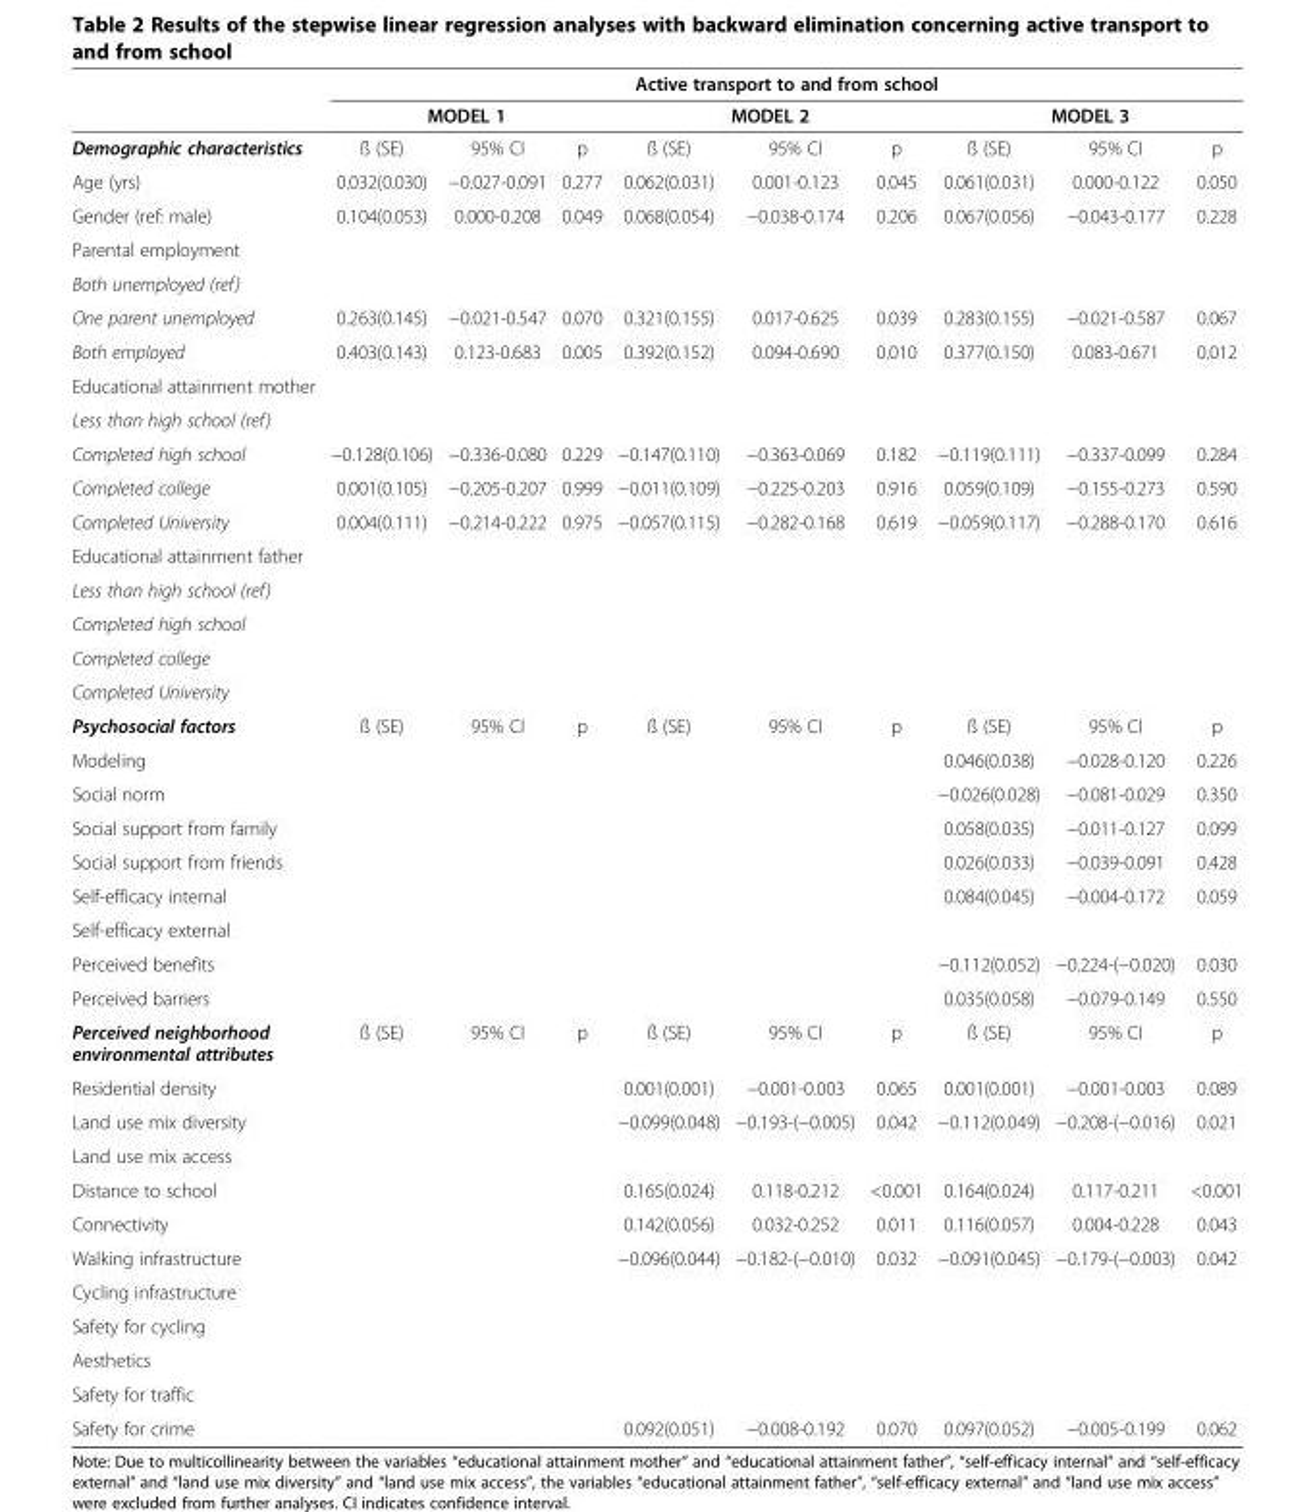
<table><thead><tr><td rowspan="3">Demographic characteristics</td><td colspan="9">Active transport to and from school</td></tr><tr><td colspan="3">MODEL 1</td><td colspan="3">MODEL 2</td><td colspan="3">MODEL 3</td></tr><tr><td>ß (SE)</td><td>95% CI</td><td>p</td><td>ß (SE)</td><td>95% CI</td><td>p</td><td>ß (SE)</td><td>95% CI</td><td>p</td></tr></thead><tbody><tr><td>Age (yrs)</td><td>0.032(0.030)</td><td>−0.027-0.091</td><td>0.277</td><td>0.062(0.031)</td><td>0.001-0.123</td><td>0.045</td><td>0.061(0.031)</td><td>0.000-0.122</td><td>0.050</td></tr><tr><td>Gender (ref: male)</td><td>0.104(0.053)</td><td>0.000-0.208</td><td>0.049</td><td>0.068(0.054)</td><td>−0.038-0.174</td><td>0.206</td><td>0.067(0.056)</td><td>−0.043-0.177</td><td>0.228</td></tr><tr><td colspan="10">Parental employment</td></tr><tr><td colspan="10">Both unemployed (ref)</td></tr><tr><td>One parent unemployed</td><td>0.263(0.145)</td><td>−0.021-0.547</td><td>0.070</td><td>0.321(0.155)</td><td>0.017-0.625</td><td>0.039</td><td>0.283(0.155)</td><td>−0.021-0.587</td><td>0.067</td></tr><tr><td>Both employed</td><td>0.403(0.143)</td><td>0.123-0.683</td><td>0.005</td><td>0.392(0.152)</td><td>0.094-0.690</td><td>0.010</td><td>0.377(0.150)</td><td>0.083-0.671</td><td>0.012</td></tr><tr><td colspan="10">Educational attainment mother</td></tr><tr><td colspan="10">Less than high school (ref)</td></tr><tr><td>Completed high school</td><td>−0.128(0.106)</td><td>−0.336-0.080</td><td>0.229</td><td>−0.147(0.110)</td><td>−0.363-0.069</td><td>0.182</td><td>−0.119(0.111)</td><td>−0.337-0.099</td><td>0.284</td></tr><tr><td>Completed college</td><td>0.001(0.105)</td><td>−0.205-0.207</td><td>0.999</td><td>−0.011(0.109)</td><td>−0.225-0.203</td><td>0.916</td><td>0.059(0.109)</td><td>−0.155-0.273</td><td>0.590</td></tr><tr><td>Completed University</td><td>0.004(0.111)</td><td>−0.214-0.222</td><td>0.975</td><td>−0.057(0.115)</td><td>−0.282-0.168</td><td>0.619</td><td>−0.059(0.117)</td><td>−0.288-0.170</td><td>0.616</td></tr><tr><td colspan="10">Educational attainment father</td></tr><tr><td colspan="10">Less than high school (ref)</td></tr><tr><td colspan="10">Completed high school</td></tr><tr><td colspan="10">Completed college</td></tr><tr><td colspan="10">Completed University</td></tr><tr><td>Psychosocial factors</td><td>ß (SE)</td><td>95% CI</td><td>p</td><td>ß (SE)</td><td>95% CI</td><td>p</td><td>ß (SE)</td><td>95% CI</td><td>p</td></tr><tr><td>Modeling</td><td></td><td></td><td></td><td></td><td></td><td></td><td>0.046(0.038)</td><td>−0.028-0.120</td><td>0.226</td></tr><tr><td>Social norm</td><td></td><td></td><td></td><td></td><td></td><td></td><td>−0.026(0.028)</td><td>−0.081-0.029</td><td>0.350</td></tr><tr><td>Social support from family</td><td></td><td></td><td></td><td></td><td></td><td></td><td>0.058(0.035)</td><td>−0.011-0.127</td><td>0.099</td></tr><tr><td>Social support from friends</td><td></td><td></td><td></td><td></td><td></td><td></td><td>0.026(0.033)</td><td>−0.039-0.091</td><td>0.428</td></tr><tr><td>Self-efficacy internal</td><td></td><td></td><td></td><td></td><td></td><td></td><td>0.084(0.045)</td><td>−0.004-0.172</td><td>0.059</td></tr><tr><td colspan="10">Self-efficacy external</td></tr><tr><td>Perceived benefits</td><td></td><td></td><td></td><td></td><td></td><td></td><td>−0.112(0.052)</td><td>−0.224-(−0.020)</td><td>0.030</td></tr><tr><td>Perceived barriers</td><td></td><td></td><td></td><td></td><td></td><td></td><td>0.035(0.058)</td><td>−0.079-0.149</td><td>0.550</td></tr><tr><td>Perceived neighborhood environmental attributes</td><td>ß (SE)</td><td>95% CI</td><td>p</td><td>ß (SE)</td><td>95% CI</td><td>p</td><td>ß (SE)</td><td>95% CI</td><td>p</td></tr><tr><td>Residential density</td><td></td><td></td><td></td><td>0.001(0.001)</td><td>−0.001-0.003</td><td>0.065</td><td>0.001(0.001)</td><td>−0.001-0.003</td><td>0.089</td></tr><tr><td>Land use mix diversity</td><td></td><td></td><td></td><td>−0.099(0.048)</td><td>−0.193-(−0.005)</td><td>0.042</td><td>−0.112(0.049)</td><td>−0.208-(−0.016)</td><td>0.021</td></tr><tr><td colspan="10">Land use mix access</td></tr><tr><td>Distance to school</td><td></td><td></td><td></td><td>0.165(0.024)</td><td>0.118-0.212</td><td>&lt;0.001</td><td>0.164(0.024)</td><td>0.117-0.211</td><td>&lt;0.001</td></tr><tr><td>Connectivity</td><td></td><td></td><td></td><td>0.142(0.056)</td><td>0.032-0.252</td><td>0.011</td><td>0.116(0.057)</td><td>0.004-0.228</td><td>0.043</td></tr><tr><td>Walking infrastructure</td><td></td><td></td><td></td><td>−0.096(0.044)</td><td>−0.182-(−0.010)</td><td>0.032</td><td>−0.091(0.045)</td><td>−0.179-(−0.003)</td><td>0.042</td></tr><tr><td colspan="10">Cycling infrastructure</td></tr><tr><td colspan="10">Safety for cycling</td></tr><tr><td colspan="10">Aesthetics</td></tr><tr><td colspan="10">Safety for traffic</td></tr><tr><td>Safety for crime</td><td></td><td></td><td></td><td>0.092(0.051)</td><td>−0.008-0.192</td><td>0.070</td><td>0.097(0.052)</td><td>−0.005-0.199</td><td>0.062</td></tr></tbody></table>